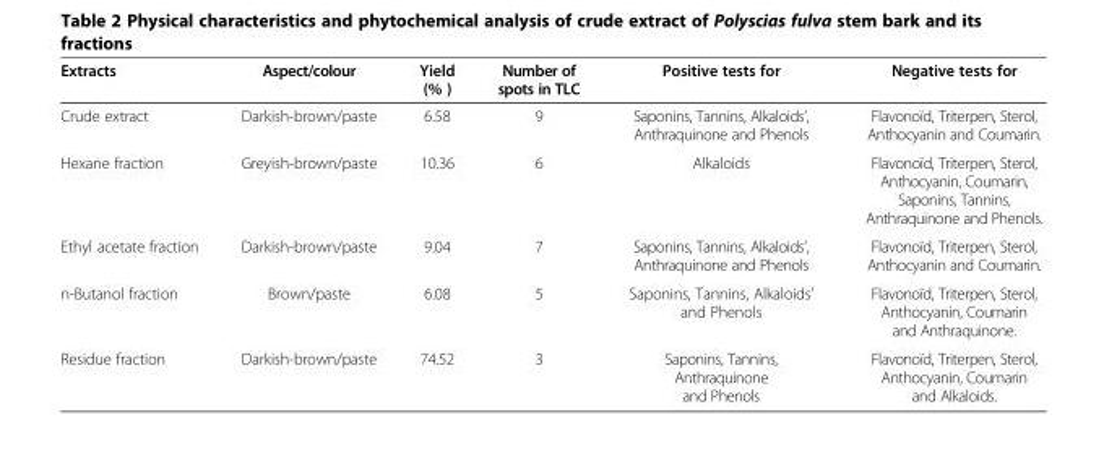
<table><thead><tr><td>Extracts</td><td>Aspect/colour</td><td>Yield (% )</td><td>Number of spots in TLC</td><td>Positive tests for</td><td>Negative tests for</td></tr></thead><tbody><tr><td>Crude extract</td><td>Darkish-brown/paste</td><td>6.58</td><td>9</td><td>Saponins, Tannins, Alkaloids’, Anthraquinone and Phenols</td><td>Flavonoïd, Triterpen, Sterol, Anthocyanin and Coumarin.</td></tr><tr><td>Hexane fraction</td><td>Greyish-brown/paste</td><td>10.36</td><td>6</td><td>Alkaloids</td><td>Flavonoïd, Triterpen, Sterol, Anthocyanin, Coumarin, Saponins, Tannins, Anthraquinone and Phenols.</td></tr><tr><td>Ethyl acetate fraction</td><td>Darkish-brown/paste</td><td>9.04</td><td>7</td><td>Saponins, Tannins, Alkaloids’, Anthraquinone and Phenols</td><td>Flavonoïd, Triterpen, Sterol, Anthocyanin and Coumarin.</td></tr><tr><td>n-Butanol fraction</td><td>Brown/paste</td><td>6.08</td><td>5</td><td>Saponins, Tannins, Alkaloids’ and Phenols</td><td>Flavonoïd, Triterpen, Sterol, Anthocyanin, Coumarin and Anthraquinone.</td></tr><tr><td>Residue fraction</td><td>Darkish-brown/paste</td><td>74.52</td><td>3</td><td>Saponins, Tannins, Anthraquinone and Phenols</td><td>Flavonoïd, Triterpen, Sterol, Anthocyanin, Coumarin and Alkaloids.</td></tr></tbody></table>